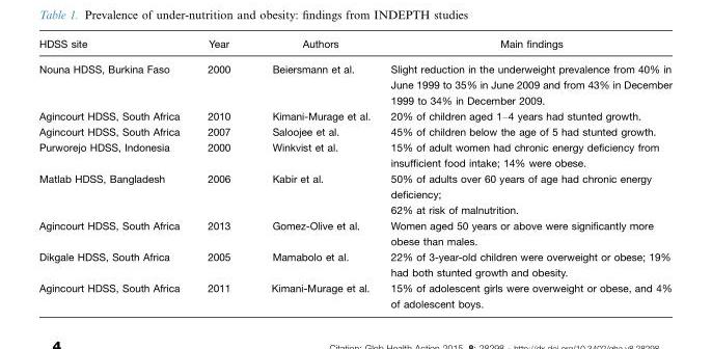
<table><thead><tr><td>HDSS site</td><td>Year</td><td>Authors</td><td>Main findings</td></tr></thead><tbody><tr><td>Nouna HDSS, Burkina Faso</td><td>2000</td><td>Beiersmann et al.</td><td>Slight reduction in the underweight prevalence from 40% in June 1999 to 35% in June 2009 and from 43% in December 1999 to 34% in December 2009.</td></tr><tr><td>Agincourt HDSS, South Africa</td><td>2010</td><td>Kimani-Murage et al.</td><td>20% of children aged 1–4 years had stunted growth.</td></tr><tr><td>Agincourt HDSS, South Africa</td><td>2007</td><td>Saloojee et al.</td><td>45% of children below the age of 5 had stunted growth.</td></tr><tr><td>Purworejo HDSS, Indonesia</td><td>2000</td><td>Winkvist et al.</td><td>15% of adult women had chronic energy deficiency from insufficient food intake; 14% were obese.</td></tr><tr><td>Matlab HDSS, Bangladesh</td><td>2006</td><td>Kabir et al.</td><td>50% of adults over 60 years of age had chronic energy deficiency; 62% at risk of malnutrition.</td></tr><tr><td>Agincourt HDSS, South Africa</td><td>2013</td><td>Gomez-Olive et al.</td><td>Women aged 50 years or above were significantly more obese than males.</td></tr><tr><td>Dikgale HDSS, South Africa</td><td>2005</td><td>Mamabolo et al.</td><td>22% of 3-year-old children were overweight or obese; 19% had both stunted growth and obesity.</td></tr><tr><td>Agincourt HDSS, South Africa</td><td>2011</td><td>Kimani-Murage et al.</td><td>15% of adolescent girls were overweight or obese, and 4% of adolescent boys.</td></tr></tbody></table>